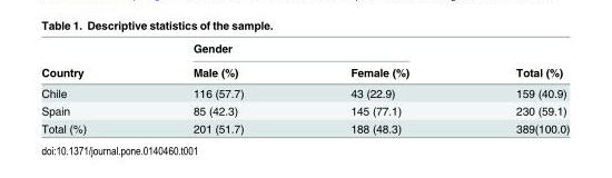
<table><thead><tr><td rowspan="2">Country</td><td colspan="2">Gender</td><td rowspan="2">Total (%)</td></tr><tr><td>Male (%)</td><td>Female (%)</td></tr></thead><tbody><tr><td>Chile</td><td>116 (57.7)</td><td>43 (22.9)</td><td>159 (40.9)</td></tr><tr><td>Spain</td><td>85 (42.3)</td><td>145 (77.1)</td><td>230 (59.1)</td></tr><tr><td>Total (%)</td><td>201 (51.7)</td><td>188 (48.3)</td><td>389(100.0)</td></tr></tbody></table>